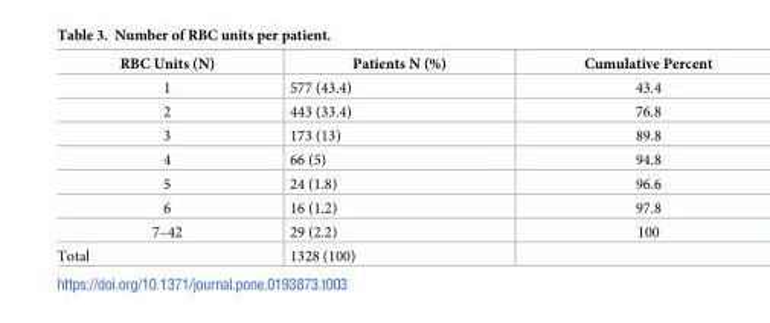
<table><thead><tr><td>RBC Units (N)</td><td>Patients N (%)</td><td>Cumulative Percent</td></tr></thead><tbody><tr><td>1</td><td>577 (43.4)</td><td>43.4</td></tr><tr><td>2</td><td>443 (33.4)</td><td>76.8</td></tr><tr><td>3</td><td>173 (13)</td><td>89.8</td></tr><tr><td>4</td><td>66 (5)</td><td>94.8</td></tr><tr><td>5</td><td>24 (1.8)</td><td>96.6</td></tr><tr><td>6</td><td>16 (1.2)</td><td>97.8</td></tr><tr><td>7–42</td><td>29 (2.2)</td><td>100</td></tr><tr><td>Total</td><td>1328 (100)</td><td></td></tr></tbody></table>